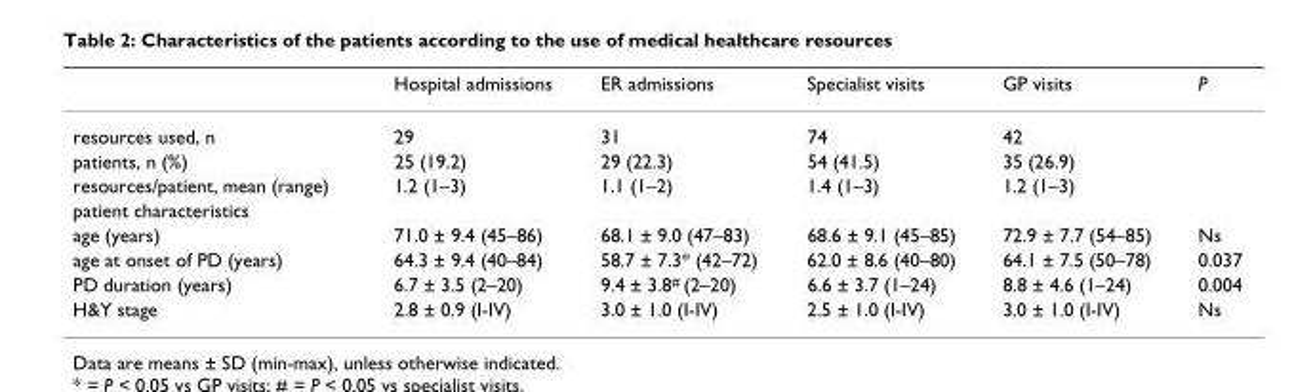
<table><thead><tr><td></td><td>Hospital admissions</td><td>ER admissions</td><td>Specialist visits</td><td>GP visits</td><td>P</td></tr></thead><tbody><tr><td>resources used, n</td><td>29</td><td>31</td><td>74</td><td>42</td><td></td></tr><tr><td>patients, n (%)</td><td>25 (19.2)</td><td>29 (22.3)</td><td>54 (41.5)</td><td>35 (26.9)</td><td></td></tr><tr><td>resources/patient, mean (range)</td><td>1.2 (1–3)</td><td>1.1 (1–2)</td><td>1.4 (1–3)</td><td>1.2 (1–3)</td><td></td></tr><tr><td colspan="6">patient characteristics</td></tr><tr><td>age (years)</td><td>71.0 ± 9.4 (45–86)</td><td>68.1 ± 9.0 (47–83)</td><td>68.6 ± 9.1 (45–85)</td><td>72.9 ± 7.7 (54–85)</td><td>Ns</td></tr><tr><td>age at onset of PD (years)</td><td>64.3 ± 9.4 (40–84)</td><td>58.7 ± 7.3* (42–72)</td><td>62.0 ± 8.6 (40–80)</td><td>64.1 ± 7.5 (50–78)</td><td>0.037</td></tr><tr><td>PD duration (years)</td><td>6.7 ± 3.5 (2–20)</td><td>9.4 ± 3.8<sup>#</sup> (2–20)</td><td>6.6 ± 3.7 (1–24)</td><td>8.8 ± 4.6 (1–24)</td><td>0.004</td></tr><tr><td>H&amp;Y stage</td><td>2.8 ± 0.9 (I-IV)</td><td>3.0 ± 1.0 (I-IV)</td><td>2.5 ± 1.0 (I-IV)</td><td>3.0 ± 1.0 (I-IV)</td><td>Ns</td></tr></tbody></table>